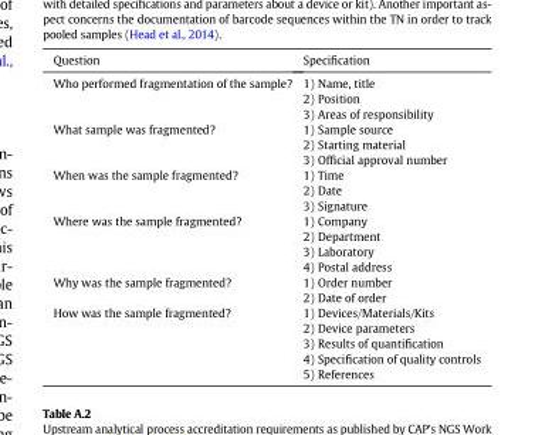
<table><thead><tr><td>Question</td><td>Specification</td></tr></thead><tbody><tr><td>Who performed fragmentation of the sample?</td><td>1) Name, title 2) Position 3) Areas of responsibility</td></tr><tr><td>What sample was fragmented?</td><td>1) Sample source 2) Starting material 3) Official approval number</td></tr><tr><td>When was the sample fragmented?</td><td>1) Time 2) Date 3) Signature</td></tr><tr><td>Where was the sample fragmented?</td><td>1) Company 2) Department 3) Laboratory 4) Postal address</td></tr><tr><td>Why was the sample fragmented?</td><td>1) Order number 2) Date of order</td></tr><tr><td>How was the sample fragmented?</td><td>1) Devices/Materials/Kits 2) Device parameters 3) Results of quantification 4) Specification of quality controls 5) References</td></tr></tbody></table>